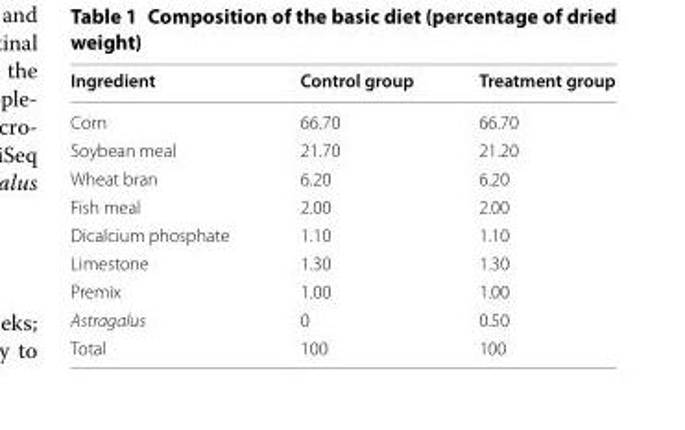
<table><thead><tr><td>Ingredient</td><td>Control group</td><td>Treatment group</td></tr></thead><tbody><tr><td>Corn</td><td>66.70</td><td>66.70</td></tr><tr><td>Soybean meal</td><td>21.70</td><td>21.20</td></tr><tr><td>Wheat bran</td><td>6.20</td><td>6.20</td></tr><tr><td>Fish meal</td><td>2.00</td><td>2.00</td></tr><tr><td>Dicalcium phosphate</td><td>1.10</td><td>1.10</td></tr><tr><td>Limestone</td><td>1.30</td><td>1.30</td></tr><tr><td>Premix</td><td>1.00</td><td>1.00</td></tr><tr><td>Astragalus</td><td>0</td><td>0.50</td></tr><tr><td>Total</td><td>100</td><td>100</td></tr></tbody></table>